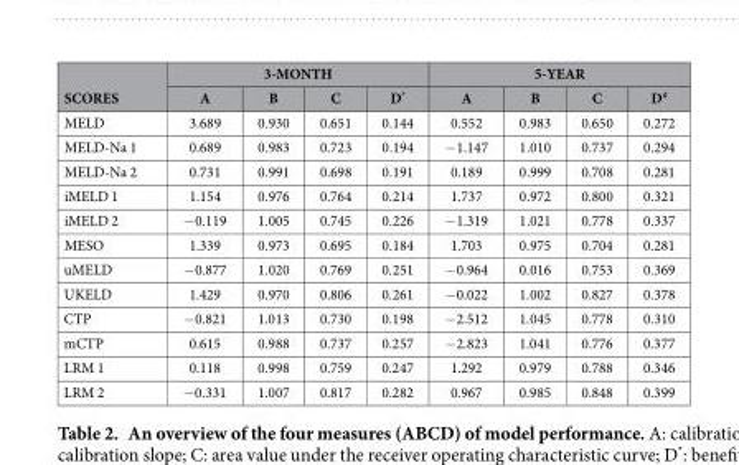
<table><thead><tr><td rowspan="2">SCORES</td><td colspan="4">3-MONTH</td><td colspan="4">5-YEAR</td></tr><tr><td>A</td><td>B</td><td>C</td><td>D*</td><td>A</td><td>B</td><td>C</td><td>D<sup>#</sup></td></tr></thead><tbody><tr><td>MELD</td><td>3.689</td><td>0.930</td><td>0.651</td><td>0.144</td><td>0.552</td><td>0.983</td><td>0.650</td><td>0.272</td></tr><tr><td>MELD-Na 1</td><td>0.689</td><td>0.983</td><td>0.723</td><td>0.194</td><td>− 1.147</td><td>1.010</td><td>0.737</td><td>0.294</td></tr><tr><td>MELD-Na 2</td><td>0.731</td><td>0.991</td><td>0.698</td><td>0.191</td><td>0.189</td><td>0.999</td><td>0.708</td><td>0.281</td></tr><tr><td>iMELD 1</td><td>1.154</td><td>0.976</td><td>0.764</td><td>0.214</td><td>1.737</td><td>0.972</td><td>0.800</td><td>0.321</td></tr><tr><td>iMELD 2</td><td>− 0.119</td><td>1.005</td><td>0.745</td><td>0.226</td><td>− 1.319</td><td>1.021</td><td>0.778</td><td>0.337</td></tr><tr><td>MESO</td><td>1.339</td><td>0.973</td><td>0.695</td><td>0.184</td><td>1.703</td><td>0.975</td><td>0.704</td><td>0.281</td></tr><tr><td>uMELD</td><td>− 0.877</td><td>1.020</td><td>0.769</td><td>0.251</td><td>− 0.964</td><td>0.016</td><td>0.753</td><td>0.369</td></tr><tr><td>UKELD</td><td>1.429</td><td>0.970</td><td>0.806</td><td>0.261</td><td>− 0.022</td><td>1.002</td><td>0.827</td><td>0.378</td></tr><tr><td>CTP</td><td>− 0.821</td><td>1.013</td><td>0.730</td><td>0.198</td><td>− 2.512</td><td>1.045</td><td>0.778</td><td>0.310</td></tr><tr><td>mCTP</td><td>0.615</td><td>0.988</td><td>0.737</td><td>0.257</td><td>− 2.823</td><td>1.041</td><td>0.776</td><td>0.377</td></tr><tr><td>LRM 1</td><td>0.118</td><td>0.998</td><td>0.759</td><td>0.247</td><td>1.292</td><td>0.979</td><td>0.788</td><td>0.346</td></tr><tr><td>LRM 2</td><td>− 0.331</td><td>1.007</td><td>0.817</td><td>0.282</td><td>0.967</td><td>0.985</td><td>0.848</td><td>0.399</td></tr></tbody></table>